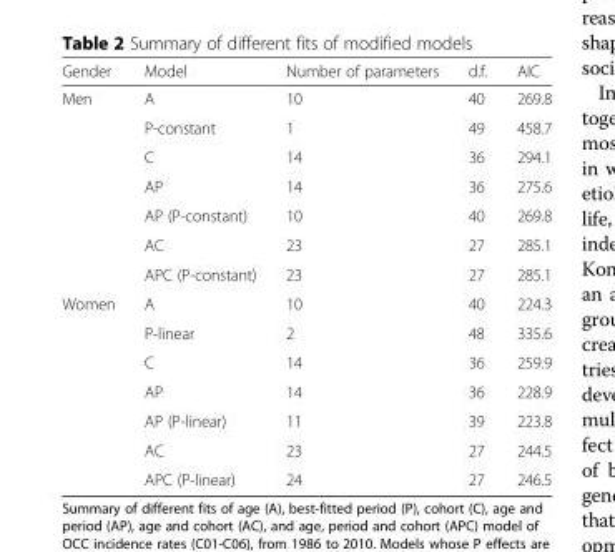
<table><thead><tr><td>Gender</td><td>Model</td><td>Number of parameters</td><td>d.f.</td><td>AIC</td></tr></thead><tbody><tr><td rowspan="7">Men</td><td>A</td><td>10</td><td>40</td><td>269.8</td></tr><tr><td>P-constant</td><td>1</td><td>49</td><td>458.7</td></tr><tr><td>C</td><td>14</td><td>36</td><td>294.1</td></tr><tr><td>AP</td><td>14</td><td>36</td><td>275.6</td></tr><tr><td>AP (P-constant)</td><td>10</td><td>40</td><td>269.8</td></tr><tr><td>AC</td><td>23</td><td>27</td><td>285.1</td></tr><tr><td>APC (P-constant)</td><td>23</td><td>27</td><td>285.1</td></tr><tr><td rowspan="7">Women</td><td>A</td><td>10</td><td>40</td><td>224.3</td></tr><tr><td>P-linear</td><td>2</td><td>48</td><td>335.6</td></tr><tr><td>C</td><td>14</td><td>36</td><td>259.9</td></tr><tr><td>AP</td><td>14</td><td>36</td><td>228.9</td></tr><tr><td>AP (P-linear)</td><td>11</td><td>39</td><td>223.8</td></tr><tr><td>AC</td><td>23</td><td>27</td><td>244.5</td></tr><tr><td>APC (P-linear)</td><td>24</td><td>27</td><td>246.5</td></tr></tbody></table>